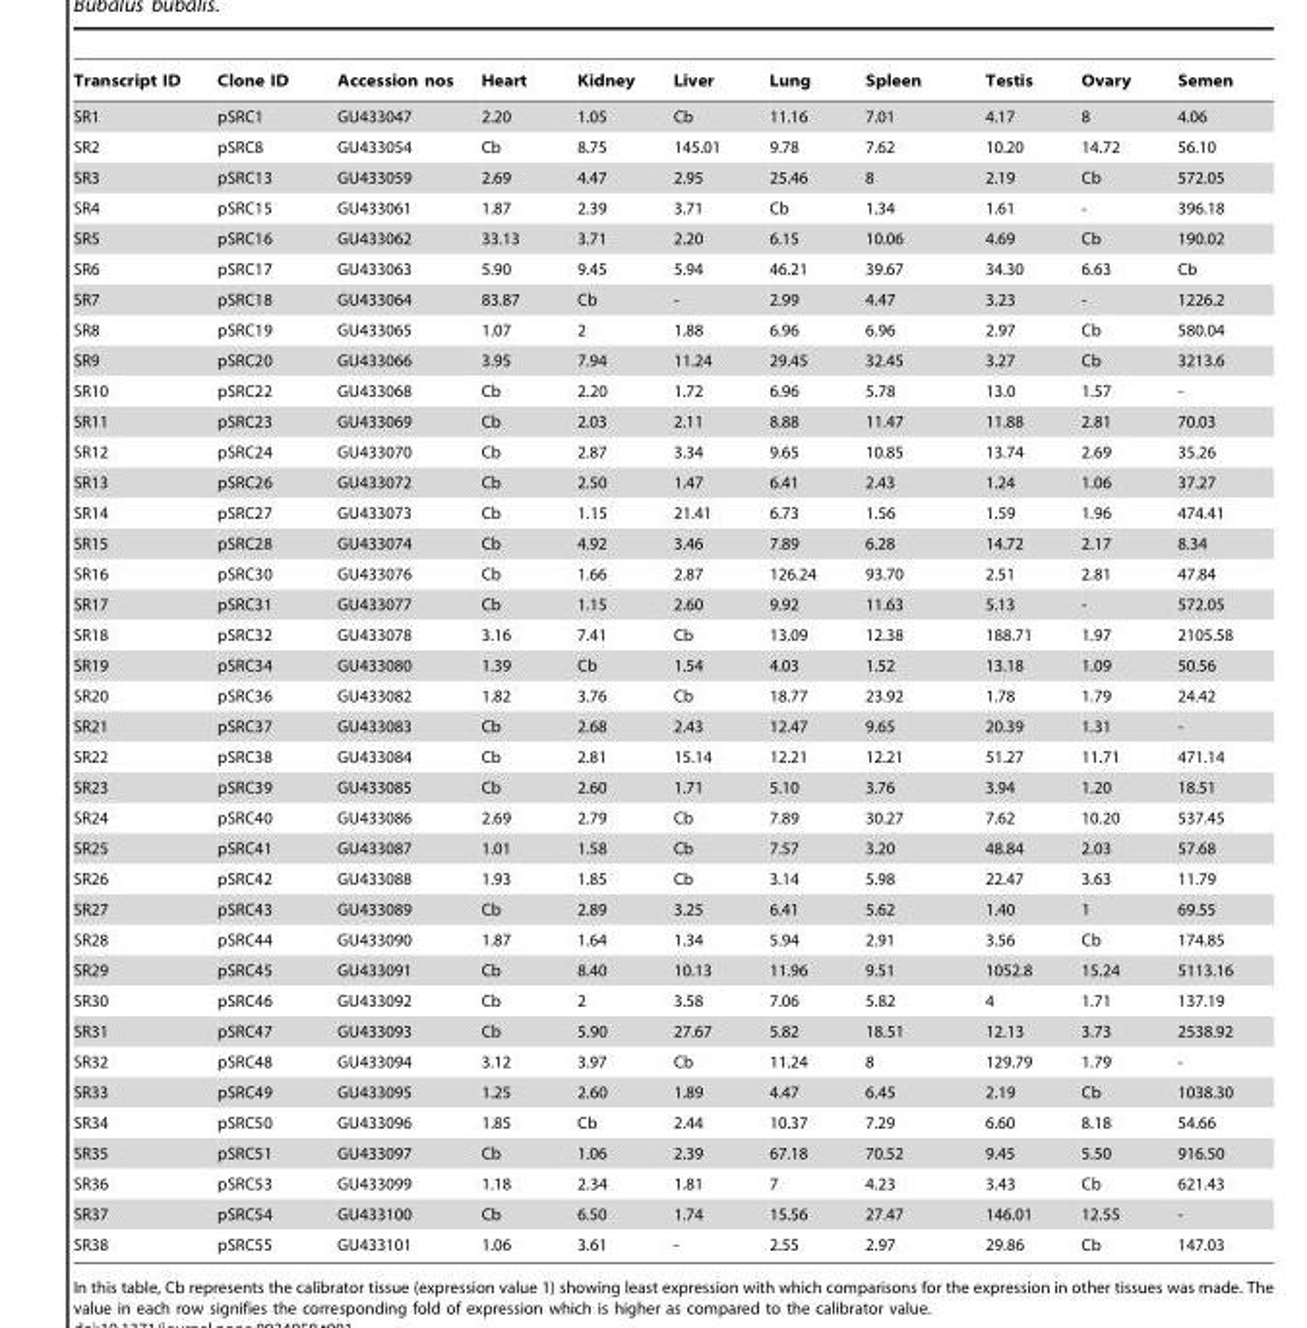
<table><thead><tr><td>Transcript ID</td><td>Clone ID</td><td>Accession nos</td><td>Heart</td><td>Kidney</td><td>Liver</td><td>Lung</td><td>Spleen</td><td>Testis</td><td>Ovary</td><td>Semen</td></tr></thead><tbody><tr><td>SR1</td><td>pSRC1</td><td>GU433047</td><td>2.20</td><td>1.05</td><td>Cb</td><td>11.16</td><td>7.01</td><td>4.17</td><td>8</td><td>4.06</td></tr><tr><td>SR2</td><td>pSRC8</td><td>GU433054</td><td>Cb</td><td>8.75</td><td>145.01</td><td>9.78</td><td>7.62</td><td>10.20</td><td>14.72</td><td>56.10</td></tr><tr><td>SR3</td><td>pSRC13</td><td>GU433059</td><td>2.69</td><td>4.47</td><td>2.95</td><td>25.46</td><td>8</td><td>2.19</td><td>Cb</td><td>572.05</td></tr><tr><td>SR4</td><td>pSRC15</td><td>GU433061</td><td>1.87</td><td>2.39</td><td>3.71</td><td>Cb</td><td>1.34</td><td>1.61</td><td>-</td><td>396.18</td></tr><tr><td>SR5</td><td>pSRC16</td><td>GU433062</td><td>33.13</td><td>3.71</td><td>2.20</td><td>6.15</td><td>10.06</td><td>4.69</td><td>Cb</td><td>190.02</td></tr><tr><td>SR6</td><td>pSRC17</td><td>GU433063</td><td>5.90</td><td>9.45</td><td>5.94</td><td>46.21</td><td>39.67</td><td>34.30</td><td>6.63</td><td>Cb</td></tr><tr><td>SR7</td><td>pSRC18</td><td>GU433064</td><td>83.87</td><td>Cb</td><td>-</td><td>2.99</td><td>4.47</td><td>3.23</td><td>-</td><td>1226.2</td></tr><tr><td>SR8</td><td>pSRC19</td><td>GU433065</td><td>1.07</td><td>2</td><td>1.88</td><td>6.96</td><td>6.96</td><td>2.97</td><td>Cb</td><td>580.04</td></tr><tr><td>SR9</td><td>pSRC20</td><td>GU433066</td><td>3.95</td><td>7.94</td><td>11.24</td><td>29.45</td><td>32.45</td><td>3.27</td><td>Cb</td><td>3213.6</td></tr><tr><td>SR10</td><td>pSRC22</td><td>GU433068</td><td>Cb</td><td>2.20</td><td>1.72</td><td>6.96</td><td>5.78</td><td>13.0</td><td>1.57</td><td>-</td></tr><tr><td>SR11</td><td>pSRC23</td><td>GU433069</td><td>Cb</td><td>2.03</td><td>2.11</td><td>8.88</td><td>11.47</td><td>11.88</td><td>2.81</td><td>70.03</td></tr><tr><td>SR12</td><td>pSRC24</td><td>GU433070</td><td>Cb</td><td>2.87</td><td>3.34</td><td>9.65</td><td>10.85</td><td>13.74</td><td>2.69</td><td>35.26</td></tr><tr><td>SR13</td><td>pSRC26</td><td>GU433072</td><td>Cb</td><td>2.50</td><td>1.47</td><td>6.41</td><td>2.43</td><td>1.24</td><td>1.06</td><td>37.27</td></tr><tr><td>SR14</td><td>pSRC27</td><td>GU433073</td><td>Cb</td><td>1.15</td><td>21.41</td><td>6.73</td><td>1.56</td><td>1.59</td><td>1.96</td><td>474.41</td></tr><tr><td>SR15</td><td>pSRC28</td><td>GU433074</td><td>Cb</td><td>4.92</td><td>3.46</td><td>7.89</td><td>6.28</td><td>14.72</td><td>2.17</td><td>8.34</td></tr><tr><td>SR16</td><td>pSRC30</td><td>GU433076</td><td>Cb</td><td>1.66</td><td>2.87</td><td>126.24</td><td>93.70</td><td>2.51</td><td>2.81</td><td>47.84</td></tr><tr><td>SR17</td><td>pSRC31</td><td>GU433077</td><td>Cb</td><td>1.15</td><td>2.60</td><td>9.92</td><td>11.63</td><td>5.13</td><td>-</td><td>572.05</td></tr><tr><td>SR18</td><td>pSRC32</td><td>GU433078</td><td>3.16</td><td>7.41</td><td>Cb</td><td>13.09</td><td>12.38</td><td>188.71</td><td>1.97</td><td>2105.58</td></tr><tr><td>SR19</td><td>pSRC34</td><td>GU433080</td><td>1.39</td><td>Cb</td><td>1.54</td><td>4.03</td><td>1.52</td><td>13.18</td><td>1.09</td><td>50.56</td></tr><tr><td>SR20</td><td>pSRC36</td><td>GU433082</td><td>1.82</td><td>3.76</td><td>Cb</td><td>18.77</td><td>23.92</td><td>1.78</td><td>1.79</td><td>24.42</td></tr><tr><td>SR21</td><td>pSRC37</td><td>GU433083</td><td>Cb</td><td>2.68</td><td>2.43</td><td>12.47</td><td>9.65</td><td>20.39</td><td>1.31</td><td>-</td></tr><tr><td>SR22</td><td>pSRC38</td><td>GU433084</td><td>Cb</td><td>2.81</td><td>15.14</td><td>12.21</td><td>12.21</td><td>51.27</td><td>11.71</td><td>471.14</td></tr><tr><td>SR23</td><td>pSRC39</td><td>GU433085</td><td>Cb</td><td>2.60</td><td>1.71</td><td>5.10</td><td>3.76</td><td>3.94</td><td>1.20</td><td>18.51</td></tr><tr><td>SR24</td><td>pSRC40</td><td>GU433086</td><td>2.69</td><td>2.79</td><td>Cb</td><td>7.89</td><td>30.27</td><td>7.62</td><td>10.20</td><td>537.45</td></tr><tr><td>SR25</td><td>pSRC41</td><td>GU433087</td><td>1.01</td><td>1.58</td><td>Cb</td><td>7.57</td><td>3.20</td><td>48.84</td><td>2.03</td><td>57.68</td></tr><tr><td>SR26</td><td>pSRC42</td><td>GU433088</td><td>1.93</td><td>1.85</td><td>Cb</td><td>3.14</td><td>5.98</td><td>22.47</td><td>3.63</td><td>11.79</td></tr><tr><td>SR27</td><td>pSRC43</td><td>GU433089</td><td>Cb</td><td>2.89</td><td>3.25</td><td>6.41</td><td>5.62</td><td>1.40</td><td>1</td><td>69.55</td></tr><tr><td>SR28</td><td>pSRC44</td><td>GU433090</td><td>1.87</td><td>1.64</td><td>1.34</td><td>5.94</td><td>2.91</td><td>3.56</td><td>Cb</td><td>174.85</td></tr><tr><td>SR29</td><td>pSRC45</td><td>GU433091</td><td>Cb</td><td>8.40</td><td>10.13</td><td>11.96</td><td>9.51</td><td>1052.8</td><td>15.24</td><td>5113.16</td></tr><tr><td>SR30</td><td>pSRC46</td><td>GU433092</td><td>Cb</td><td>2</td><td>3.58</td><td>7.06</td><td>5.82</td><td>4</td><td>1.71</td><td>137.19</td></tr><tr><td>SR31</td><td>pSRC47</td><td>GU433093</td><td>Cb</td><td>5.90</td><td>27.67</td><td>5.82</td><td>18.51</td><td>12.13</td><td>3.73</td><td>2538.92</td></tr><tr><td>SR32</td><td>pSRC48</td><td>GU433094</td><td>3.12</td><td>3.97</td><td>Cb</td><td>11.24</td><td>8</td><td>129.79</td><td>1.79</td><td>-</td></tr><tr><td>SR33</td><td>pSRC49</td><td>GU433095</td><td>1.25</td><td>2.60</td><td>1.89</td><td>4.47</td><td>6.45</td><td>2.19</td><td>Cb</td><td>1038.30</td></tr><tr><td>SR34</td><td>pSRC50</td><td>GU433096</td><td>1.85</td><td>Cb</td><td>2.44</td><td>10.37</td><td>7.29</td><td>6.60</td><td>8.18</td><td>54.66</td></tr><tr><td>SR35</td><td>pSRC51</td><td>GU433097</td><td>Cb</td><td>1.06</td><td>2.39</td><td>67.18</td><td>70.52</td><td>9.45</td><td>5.50</td><td>916.50</td></tr><tr><td>SR36</td><td>pSRC53</td><td>GU433099</td><td>1.18</td><td>2.34</td><td>1.81</td><td>7</td><td>4.23</td><td>3.43</td><td>Cb</td><td>621.43</td></tr><tr><td>SR37</td><td>pSRC54</td><td>GU433100</td><td>Cb</td><td>6.50</td><td>1.74</td><td>15.56</td><td>27.47</td><td>146.01</td><td>12.55</td><td>-</td></tr><tr><td>SR38</td><td>pSRC55</td><td>GU433101</td><td>1.06</td><td>3.61</td><td>-</td><td>2.55</td><td>2.97</td><td>29.86</td><td>Cb</td><td>147.03</td></tr></tbody></table>